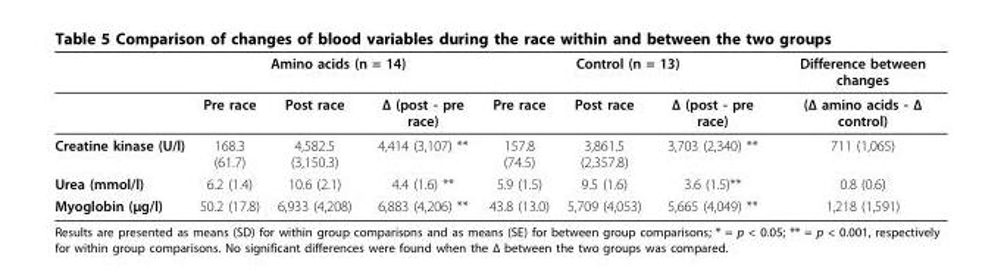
<table><thead><tr><td rowspan="2"></td><td colspan="3">Amino acids (n = 14)</td><td colspan="3">Control (n = 13)</td><td rowspan="2">Difference between changes (Δ amino acids - Δ control)</td></tr><tr><td>Pre race</td><td>Post race</td><td>Δ (post - pre race)</td><td>Pre race</td><td>Post race</td><td>Δ (post - pre race)</td></tr></thead><tbody><tr><td>Creatine kinase (U/l)</td><td>168.3 (61.7)</td><td>4,582.5 (3,150.3)</td><td>4,414 (3,107) **</td><td>157.8 (74.5)</td><td>3,861.5 (2,357.8)</td><td>3,703 (2,340) **</td><td>711 (1,065)</td></tr><tr><td>Urea (mmol/l)</td><td>6.2 (1.4)</td><td>10.6 (2.1)</td><td>4.4 (1.6) **</td><td>5.9 (1.5)</td><td>9.5 (1.6)</td><td>3.6 (1.5)**</td><td>0.8 (0.6)</td></tr><tr><td>Myoglobin (μg/l)</td><td>50.2 (17.8)</td><td>6,933 (4,208)</td><td>6,883 (4,206) **</td><td>43.8 (13.0)</td><td>5,709 (4,053)</td><td>5,665 (4,049) **</td><td>1,218 (1,591)</td></tr></tbody></table>